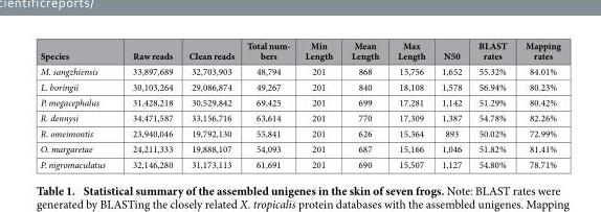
<table><thead><tr><td>Species</td><td>Raw reads</td><td>Clean reads</td><td>Total num- bers</td><td>Min Length</td><td>Mean Length</td><td>Max Length</td><td>N50</td><td>BLAST rates</td><td>Mapping rates</td></tr></thead><tbody><tr><td>M. sangzhiensis</td><td>33,897,689</td><td>32,703,903</td><td>48,794</td><td>201</td><td>868</td><td>15,756</td><td>1,652</td><td>55.32%</td><td>84.01%</td></tr><tr><td>L. boringii</td><td>30,103,264</td><td>29,086,874</td><td>49,267</td><td>201</td><td>840</td><td>18,108</td><td>1,578</td><td>56.94%</td><td>80.23%</td></tr><tr><td>P. megacephalus</td><td>31,428,218</td><td>30,529,842</td><td>69,425</td><td>201</td><td>699</td><td>17,281</td><td>1,142</td><td>51.29%</td><td>80.42%</td></tr><tr><td>R. dennysi</td><td>34,471,587</td><td>33,156,716</td><td>63,614</td><td>201</td><td>770</td><td>17,309</td><td>1,387</td><td>54.78%</td><td>82.26%</td></tr><tr><td>R. omeimontis</td><td>23,940,046</td><td>19,792,130</td><td>55,841</td><td>201</td><td>626</td><td>15,364</td><td>893</td><td>50.02%</td><td>72.99%</td></tr><tr><td>O. margaretae</td><td>24,211,333</td><td>19,888,107</td><td>54,093</td><td>201</td><td>687</td><td>15,166</td><td>1,046</td><td>51.82%</td><td>81.41%</td></tr><tr><td>P. nigromaculatus</td><td>32,146,280</td><td>31,173,113</td><td>61,691</td><td>201</td><td>690</td><td>15,507</td><td>1,127</td><td>54.80%</td><td>78.71%</td></tr></tbody></table>